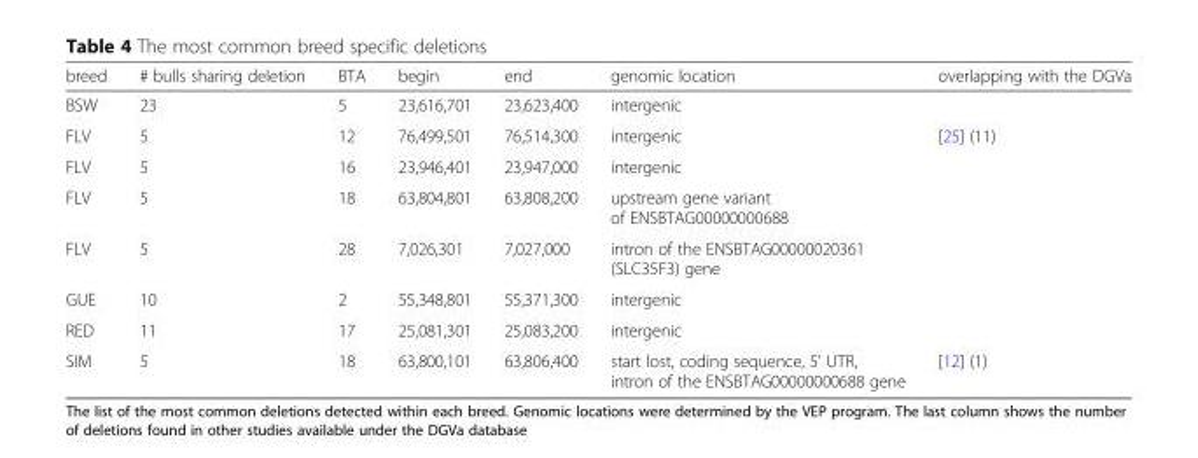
<table><thead><tr><td>breed</td><td># bulls sharing deletion</td><td>BTA</td><td>begin</td><td>end</td><td>genomic location</td><td>overlapping with the DGVa</td></tr></thead><tbody><tr><td>BSW</td><td>23</td><td>5</td><td>23,616,701</td><td>23,623,400</td><td>intergenic</td><td></td></tr><tr><td>FLV</td><td>5</td><td>12</td><td>76,499,501</td><td>76,514,300</td><td>intergenic</td><td>[25] (11)</td></tr><tr><td>FLV</td><td>5</td><td>16</td><td>23,946,401</td><td>23,947,000</td><td>intergenic</td><td></td></tr><tr><td>FLV</td><td>5</td><td>18</td><td>63,804,801</td><td>63,808,200</td><td>upstream gene variant of ENSBTAG00000000688</td><td></td></tr><tr><td>FLV</td><td>5</td><td>28</td><td>7,026,301</td><td>7,027,000</td><td>intron of the ENSBTAG00000020361 (SLC35F3) gene</td><td></td></tr><tr><td>GUE</td><td>10</td><td>2</td><td>55,348,801</td><td>55,371,300</td><td>intergenic</td><td></td></tr><tr><td>RED</td><td>11</td><td>17</td><td>25,081,301</td><td>25,083,200</td><td>intergenic</td><td></td></tr><tr><td>SIM</td><td>5</td><td>18</td><td>63,800,101</td><td>63,806,400</td><td>start lost, coding sequence, 5’ UTR, intron of the ENSBTAG00000000688 gene</td><td>[12] (1)</td></tr></tbody></table>